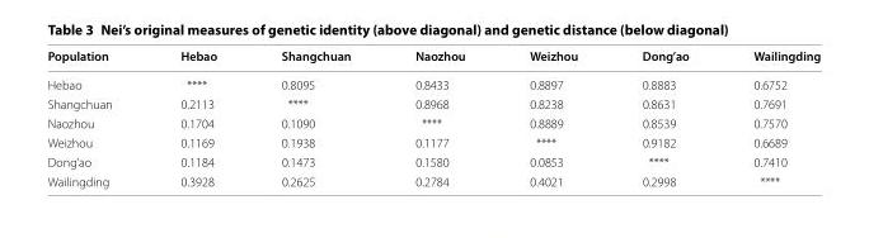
<table><thead><tr><td>Population</td><td>Hebao</td><td>Shangchuan</td><td>Naozhou</td><td>Weizhou</td><td>Dong’ao</td><td>Wailingding</td></tr></thead><tbody><tr><td>Hebao</td><td>****</td><td>0.8095</td><td>0.8433</td><td>0.8897</td><td>0.8883</td><td>0.6752</td></tr><tr><td>Shangchuan</td><td>0.2113</td><td>****</td><td>0.8968</td><td>0.8238</td><td>0.8631</td><td>0.7691</td></tr><tr><td>Naozhou</td><td>0.1704</td><td>0.1090</td><td>****</td><td>0.8889</td><td>0.8539</td><td>0.7570</td></tr><tr><td>Weizhou</td><td>0.1169</td><td>0.1938</td><td>0.1177</td><td>****</td><td>0.9182</td><td>0.6689</td></tr><tr><td>Dong’ao</td><td>0.1184</td><td>0.1473</td><td>0.1580</td><td>0.0853</td><td>****</td><td>0.7410</td></tr><tr><td>Wailingding</td><td>0.3928</td><td>0.2625</td><td>0.2784</td><td>0.4021</td><td>0.2998</td><td>****</td></tr></tbody></table>